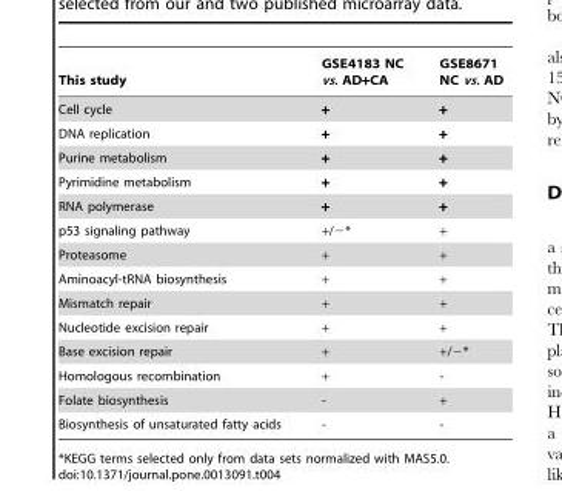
<table><thead><tr><td>This study</td><td>GSE4183 NC vs. AD+CA</td><td>GSE8671 NC vs. AD</td></tr></thead><tbody><tr><td>Cell cycle</td><td>+</td><td>+</td></tr><tr><td>DNA replication</td><td>+</td><td>+</td></tr><tr><td>Purine metabolism</td><td>+</td><td>+</td></tr><tr><td>Pyrimidine metabolism</td><td>+</td><td>+</td></tr><tr><td>RNA polymerase</td><td>+</td><td>+</td></tr><tr><td>p53 signaling pathway</td><td>+/−*</td><td>+</td></tr><tr><td>Proteasome</td><td>+</td><td>+</td></tr><tr><td>Aminoacyl-tRNA biosynthesis</td><td>+</td><td>+</td></tr><tr><td>Mismatch repair</td><td>+</td><td>+</td></tr><tr><td>Nucleotide excision repair</td><td>+</td><td>+</td></tr><tr><td>Base excision repair</td><td>+</td><td>+/−*</td></tr><tr><td>Homologous recombination</td><td>+</td><td>-</td></tr><tr><td>Folate biosynthesis</td><td>-</td><td>+</td></tr><tr><td>Biosynthesis of unsaturated fatty acids</td><td>-</td><td>-</td></tr></tbody></table>